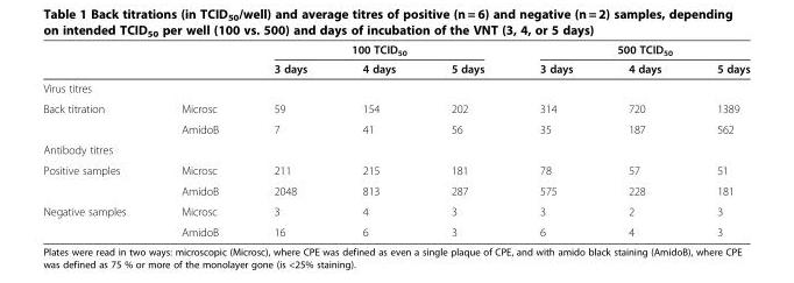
<table><thead><tr><td rowspan="2"></td><td rowspan="2"></td><td colspan="3">100 TCID<sub>50</sub></td><td colspan="3">500 TCID<sub>50</sub></td></tr><tr><td>3 days</td><td>4 days</td><td>5 days</td><td>3 days</td><td>4 days</td><td>5 days</td></tr></thead><tbody><tr><td colspan="8">Virus titres</td></tr><tr><td rowspan="2">Back titration</td><td>Microsc</td><td>59</td><td>154</td><td>202</td><td>314</td><td>720</td><td>1389</td></tr><tr><td>AmidoB</td><td>7</td><td>41</td><td>56</td><td>35</td><td>187</td><td>562</td></tr><tr><td colspan="8">Antibody titres</td></tr><tr><td rowspan="2">Positive samples</td><td>Microsc</td><td>211</td><td>215</td><td>181</td><td>78</td><td>57</td><td>51</td></tr><tr><td>AmidoB</td><td>2048</td><td>813</td><td>287</td><td>575</td><td>228</td><td>181</td></tr><tr><td rowspan="2">Negative samples</td><td>Microsc</td><td>3</td><td>4</td><td>3</td><td>3</td><td>2</td><td>3</td></tr><tr><td>AmidoB</td><td>16</td><td>6</td><td>3</td><td>6</td><td>4</td><td>3</td></tr></tbody></table>